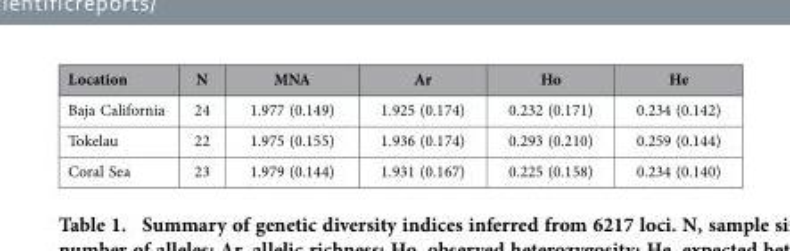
<table><thead><tr><td>Location</td><td>N</td><td>MNA</td><td>Ar</td><td>Ho</td><td>He</td></tr></thead><tbody><tr><td>Baja California</td><td>24</td><td>1.977 (0.149)</td><td>1.925 (0.174)</td><td>0.232 (0.171)</td><td>0.234 (0.142)</td></tr><tr><td>Tokelau</td><td>22</td><td>1.975 (0.155)</td><td>1.936 (0.174)</td><td>0.293 (0.210)</td><td>0.259 (0.144)</td></tr><tr><td>Coral Sea</td><td>23</td><td>1.979 (0.144)</td><td>1.931 (0.167)</td><td>0.225 (0.158)</td><td>0.234 (0.140)</td></tr></tbody></table>